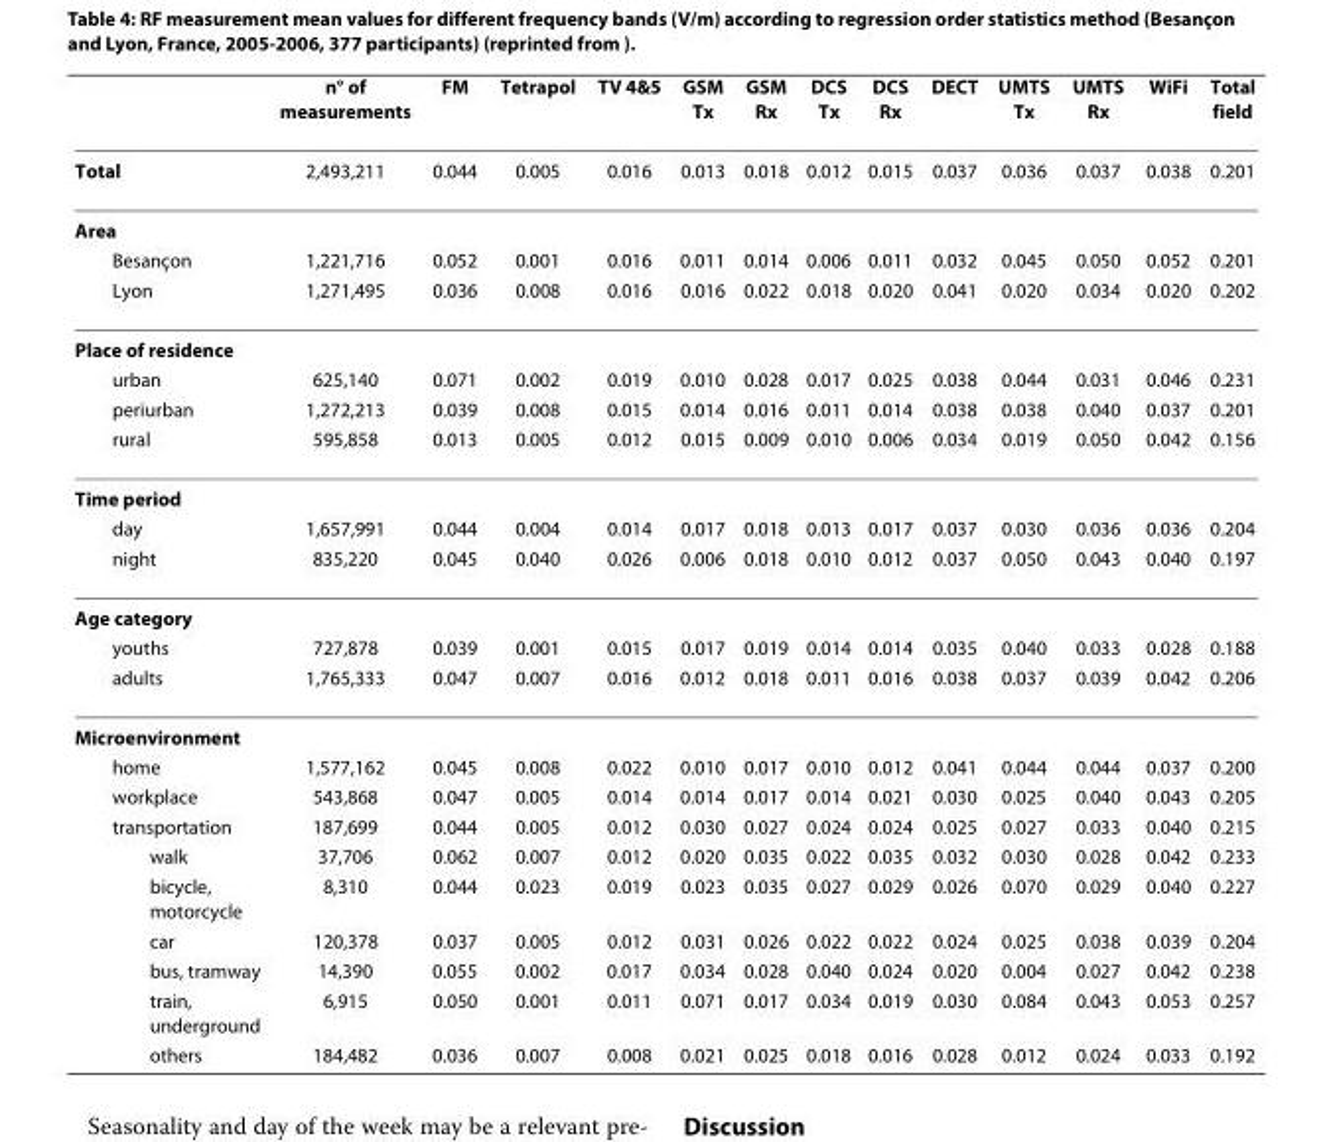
<table><thead><tr><td></td><td>n° of measurements</td><td>FM</td><td>Tetrapol</td><td>TV 4&amp;5</td><td>GSM Tx</td><td>GSM Rx</td><td>DCS Tx</td><td>DCS Rx</td><td>DECT</td><td>UMTS Tx</td><td>UMTS Rx</td><td>WiFi</td><td>Total field</td></tr></thead><tbody><tr><td>Total</td><td>2,493,211</td><td>0.044</td><td>0.005</td><td>0.016</td><td>0.013</td><td>0.018</td><td>0.012</td><td>0.015</td><td>0.037</td><td>0.036</td><td>0.037</td><td>0.038</td><td>0.201</td></tr><tr><td colspan="14">Area</td></tr><tr><td>Besançon</td><td>1,221,716</td><td>0.052</td><td>0.001</td><td>0.016</td><td>0.011</td><td>0.014</td><td>0.006</td><td>0.011</td><td>0.032</td><td>0.045</td><td>0.050</td><td>0.052</td><td>0.201</td></tr><tr><td>Lyon</td><td>1,271,495</td><td>0.036</td><td>0.008</td><td>0.016</td><td>0.016</td><td>0.022</td><td>0.018</td><td>0.020</td><td>0.041</td><td>0.020</td><td>0.034</td><td>0.020</td><td>0.202</td></tr><tr><td colspan="14">Place of residence</td></tr><tr><td>urban</td><td>625,140</td><td>0.071</td><td>0.002</td><td>0.019</td><td>0.010</td><td>0.028</td><td>0.017</td><td>0.025</td><td>0.038</td><td>0.044</td><td>0.031</td><td>0.046</td><td>0.231</td></tr><tr><td>periurban</td><td>1,272,213</td><td>0.039</td><td>0.008</td><td>0.015</td><td>0.014</td><td>0.016</td><td>0.011</td><td>0.014</td><td>0.038</td><td>0.038</td><td>0.040</td><td>0.037</td><td>0.201</td></tr><tr><td>rural</td><td>595,858</td><td>0.013</td><td>0.005</td><td>0.012</td><td>0.015</td><td>0.009</td><td>0.010</td><td>0.006</td><td>0.034</td><td>0.019</td><td>0.050</td><td>0.042</td><td>0.156</td></tr><tr><td colspan="14">Time period</td></tr><tr><td>day</td><td>1,657,991</td><td>0.044</td><td>0.004</td><td>0.014</td><td>0.017</td><td>0.018</td><td>0.013</td><td>0.017</td><td>0.037</td><td>0.030</td><td>0.036</td><td>0.036</td><td>0.204</td></tr><tr><td>night</td><td>835,220</td><td>0.045</td><td>0.040</td><td>0.026</td><td>0.006</td><td>0.018</td><td>0.010</td><td>0.012</td><td>0.037</td><td>0.050</td><td>0.043</td><td>0.040</td><td>0.197</td></tr><tr><td colspan="14">Age category</td></tr><tr><td>youths</td><td>727,878</td><td>0.039</td><td>0.001</td><td>0.015</td><td>0.017</td><td>0.019</td><td>0.014</td><td>0.014</td><td>0.035</td><td>0.040</td><td>0.033</td><td>0.028</td><td>0.188</td></tr><tr><td>adults</td><td>1,765,333</td><td>0.047</td><td>0.007</td><td>0.016</td><td>0.012</td><td>0.018</td><td>0.011</td><td>0.016</td><td>0.038</td><td>0.037</td><td>0.039</td><td>0.042</td><td>0.206</td></tr><tr><td colspan="14">Microenvironment</td></tr><tr><td>home</td><td>1,577,162</td><td>0.045</td><td>0.008</td><td>0.022</td><td>0.010</td><td>0.017</td><td>0.010</td><td>0.012</td><td>0.041</td><td>0.044</td><td>0.044</td><td>0.037</td><td>0.200</td></tr><tr><td>workplace</td><td>543,868</td><td>0.047</td><td>0.005</td><td>0.014</td><td>0.014</td><td>0.017</td><td>0.014</td><td>0.021</td><td>0.030</td><td>0.025</td><td>0.040</td><td>0.043</td><td>0.205</td></tr><tr><td>transportation</td><td>187,699</td><td>0.044</td><td>0.005</td><td>0.012</td><td>0.030</td><td>0.027</td><td>0.024</td><td>0.024</td><td>0.025</td><td>0.027</td><td>0.033</td><td>0.040</td><td>0.215</td></tr><tr><td>walk</td><td>37,706</td><td>0.062</td><td>0.007</td><td>0.012</td><td>0.020</td><td>0.035</td><td>0.022</td><td>0.035</td><td>0.032</td><td>0.030</td><td>0.028</td><td>0.042</td><td>0.233</td></tr><tr><td>bicycle, motorcycle</td><td>8,310</td><td>0.044</td><td>0.023</td><td>0.019</td><td>0.023</td><td>0.035</td><td>0.027</td><td>0.029</td><td>0.026</td><td>0.070</td><td>0.029</td><td>0.040</td><td>0.227</td></tr><tr><td>car</td><td>120,378</td><td>0.037</td><td>0.005</td><td>0.012</td><td>0.031</td><td>0.026</td><td>0.022</td><td>0.022</td><td>0.024</td><td>0.025</td><td>0.038</td><td>0.039</td><td>0.204</td></tr><tr><td>bus, tramway</td><td>14,390</td><td>0.055</td><td>0.002</td><td>0.017</td><td>0.034</td><td>0.028</td><td>0.040</td><td>0.024</td><td>0.020</td><td>0.004</td><td>0.027</td><td>0.042</td><td>0.238</td></tr><tr><td>train, underground</td><td>6,915</td><td>0.050</td><td>0.001</td><td>0.011</td><td>0.071</td><td>0.017</td><td>0.034</td><td>0.019</td><td>0.030</td><td>0.084</td><td>0.043</td><td>0.053</td><td>0.257</td></tr><tr><td>others</td><td>184,482</td><td>0.036</td><td>0.007</td><td>0.008</td><td>0.021</td><td>0.025</td><td>0.018</td><td>0.016</td><td>0.028</td><td>0.012</td><td>0.024</td><td>0.033</td><td>0.192</td></tr></tbody></table>